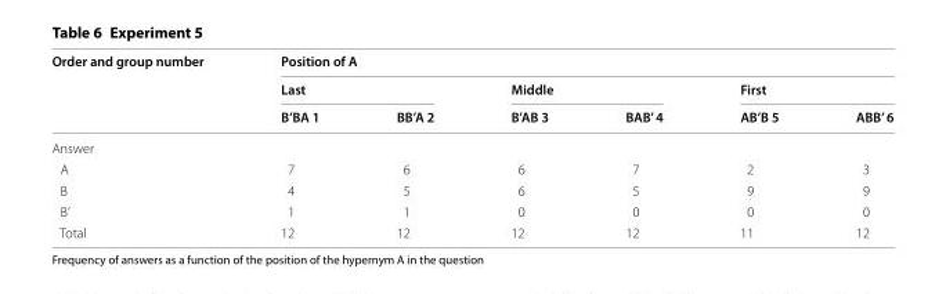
<table><thead><tr><td rowspan="3">Order and group number</td><td colspan="6">Position of A</td></tr><tr><td colspan="2">Last</td><td colspan="2">Middle</td><td colspan="2">First</td></tr><tr><td>B’BA 1</td><td>BB’A 2</td><td>B’AB 3</td><td>BAB’ 4</td><td>AB’B 5</td><td>ABB’ 6</td></tr></thead><tbody><tr><td colspan="7">Answer</td></tr><tr><td>A</td><td>7</td><td>6</td><td>6</td><td>7</td><td>2</td><td>3</td></tr><tr><td>B</td><td>4</td><td>5</td><td>6</td><td>5</td><td>9</td><td>9</td></tr><tr><td>B’</td><td>1</td><td>1</td><td>0</td><td>0</td><td>0</td><td>0</td></tr><tr><td>Total</td><td>12</td><td>12</td><td>12</td><td>12</td><td>11</td><td>12</td></tr></tbody></table>